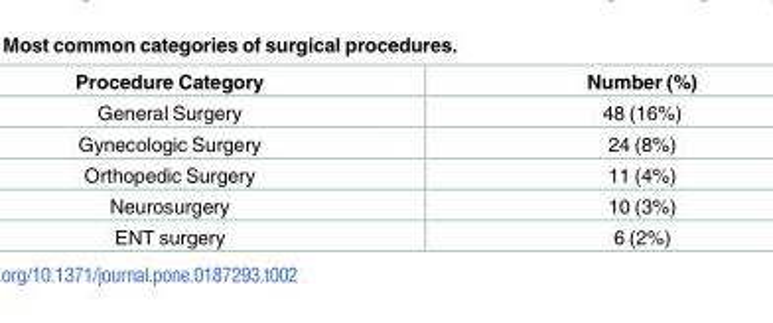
<table><thead><tr><td>Procedure Category</td><td>Number (%)</td></tr></thead><tbody><tr><td>General Surgery</td><td>48 (16%)</td></tr><tr><td>Gynecologic Surgery</td><td>24 (8%)</td></tr><tr><td>Orthopedic Surgery</td><td>11 (4%)</td></tr><tr><td>Neurosurgery</td><td>10 (3%)</td></tr><tr><td>ENT surgery</td><td>6 (2%)</td></tr></tbody></table>